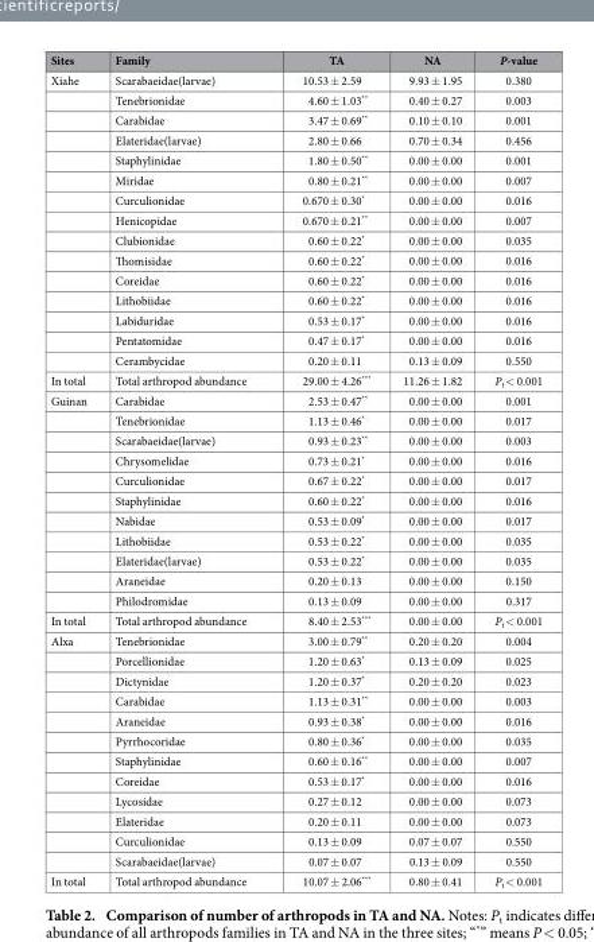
<table><thead><tr><td>Sites</td><td>Family</td><td>TA</td><td>NA</td><td>P-value</td></tr></thead><tbody><tr><td rowspan="15">Xiahe</td><td>Scarabaeidae(larvae)</td><td>10.53 ± 2.59</td><td>9.93 ± 1.95</td><td>0.380</td></tr><tr><td>Tenebrionidae</td><td>4.60 ± 1.03**</td><td>0.40 ± 0.27</td><td>0.003</td></tr><tr><td>Carabidae</td><td>3.47 ± 0.69**</td><td>0.10 ± 0.10</td><td>0.001</td></tr><tr><td>Elateridae(larvae)</td><td>2.80 ± 0.66</td><td>0.70 ± 0.34</td><td>0.456</td></tr><tr><td>Staphylinidae</td><td>1.80 ± 0.50**</td><td>0.00 ± 0.00</td><td>0.001</td></tr><tr><td>Miridae</td><td>0.80 ± 0.21**</td><td>0.00 ± 0.00</td><td>0.007</td></tr><tr><td>Curculionidae</td><td>0.670 ± 0.30*</td><td>0.00 ± 0.00</td><td>0.016</td></tr><tr><td>Henicopidae</td><td>0.670 ± 0.21**</td><td>0.00 ± 0.00</td><td>0.007</td></tr><tr><td>Clubionidae</td><td>0.60 ± 0.22*</td><td>0.00 ± 0.00</td><td>0.035</td></tr><tr><td>Thomisidae</td><td>0.60 ± 0.22*</td><td>0.00 ± 0.00</td><td>0.016</td></tr><tr><td>Coreidae</td><td>0.60 ± 0.22*</td><td>0.00 ± 0.00</td><td>0.016</td></tr><tr><td>Lithobiidae</td><td>0.60 ± 0.22*</td><td>0.00 ± 0.00</td><td>0.016</td></tr><tr><td>Labiduridae</td><td>0.53 ± 0.17*</td><td>0.00 ± 0.00</td><td>0.016</td></tr><tr><td>Pentatomidae</td><td>0.47 ± 0.17*</td><td>0.00 ± 0.00</td><td>0.016</td></tr><tr><td>Cerambycidae</td><td>0.20 ± 0.11</td><td>0.13 ± 0.09</td><td>0.550</td></tr><tr><td>In total</td><td>Total arthropod abundance</td><td>29.00 ± 4.26***</td><td>11.26 ± 1.82</td><td>P<sub>t</sub> &lt; 0.001</td></tr><tr><td rowspan="11">Guinan</td><td>Carabidae</td><td>2.53 ± 0.47**</td><td>0.00 ± 0.00</td><td>0.001</td></tr><tr><td>Tenebrionidae</td><td>1.13 ± 0.46*</td><td>0.00 ± 0.00</td><td>0.017</td></tr><tr><td>Scarabaeidae(larvae)</td><td>0.93 ± 0.23**</td><td>0.00 ± 0.00</td><td>0.003</td></tr><tr><td>Chrysomelidae</td><td>0.73 ± 0.21*</td><td>0.00 ± 0.00</td><td>0.016</td></tr><tr><td>Curculionidae</td><td>0.67 ± 0.22*</td><td>0.00 ± 0.00</td><td>0.017</td></tr><tr><td>Staphylinidae</td><td>0.60 ± 0.22*</td><td>0.00 ± 0.00</td><td>0.016</td></tr><tr><td>Nabidae</td><td>0.53 ± 0.09*</td><td>0.00 ± 0.00</td><td>0.017</td></tr><tr><td>Lithobiidae</td><td>0.53 ± 0.22*</td><td>0.00 ± 0.00</td><td>0.035</td></tr><tr><td>Elateridae(larvae)</td><td>0.53 ± 0.22*</td><td>0.00 ± 0.00</td><td>0.035</td></tr><tr><td>Araneidae</td><td>0.20 ± 0.13</td><td>0.00 ± 0.00</td><td>0.150</td></tr><tr><td>Philodromidae</td><td>0.13 ± 0.09</td><td>0.00 ± 0.00</td><td>0.317</td></tr><tr><td>In total</td><td>Total arthropod abundance</td><td>8.40 ± 2.53***</td><td>0.00 ± 0.00</td><td>P<sub>t</sub> &lt; 0.001</td></tr><tr><td rowspan="12">Alxa</td><td>Tenebrionidae</td><td>3.00 ± 0.79**</td><td>0.20 ± 0.20</td><td>0.004</td></tr><tr><td>Porcellionidae</td><td>1.20 ± 0.63*</td><td>0.13 ± 0.09</td><td>0.025</td></tr><tr><td>Dictynidae</td><td>1.20 ± 0.37*</td><td>0.20 ± 0.20</td><td>0.023</td></tr><tr><td>Carabidae</td><td>1.13 ± 0.31**</td><td>0.00 ± 0.00</td><td>0.003</td></tr><tr><td>Araneidae</td><td>0.93 ± 0.38*</td><td>0.00 ± 0.00</td><td>0.016</td></tr><tr><td>Pyrrhocoridae</td><td>0.80 ± 0.36*</td><td>0.00 ± 0.00</td><td>0.035</td></tr><tr><td>Staphylinidae</td><td>0.60 ± 0.16**</td><td>0.00 ± 0.00</td><td>0.007</td></tr><tr><td>Coreidae</td><td>0.53 ± 0.17*</td><td>0.00 ± 0.00</td><td>0.016</td></tr><tr><td>Lycosidae</td><td>0.27 ± 0.12</td><td>0.00 ± 0.00</td><td>0.073</td></tr><tr><td>Elateridae</td><td>0.20 ± 0.11</td><td>0.00 ± 0.00</td><td>0.073</td></tr><tr><td>Curculionidae</td><td>0.13 ± 0.09</td><td>0.07 ± 0.07</td><td>0.550</td></tr><tr><td>Scarabaeidae(larvae)</td><td>0.07 ± 0.07</td><td>0.13 ± 0.09</td><td>0.550</td></tr><tr><td>In total</td><td>Total arthropod abundance</td><td>10.07 ± 2.06***</td><td>0.80 ± 0.41</td><td>P<sub>t</sub> &lt; 0.001</td></tr></tbody></table>